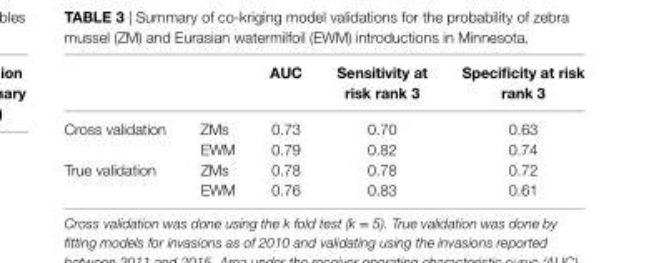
<table><thead><tr><td></td><td></td><td>aUc</td><td>sensitivity at risk rank 3</td><td>specificity at risk rank 3</td></tr></thead><tbody><tr><td rowspan="2">Cross validation</td><td>ZMs</td><td>0.73</td><td>0.70</td><td>0.63</td></tr><tr><td>EWM</td><td>0.79</td><td>0.82</td><td>0.74</td></tr><tr><td rowspan="2">True validation</td><td>ZMs</td><td>0.78</td><td>0.78</td><td>0.72</td></tr><tr><td>EWM</td><td>0.76</td><td>0.83</td><td>0.61</td></tr></tbody></table>